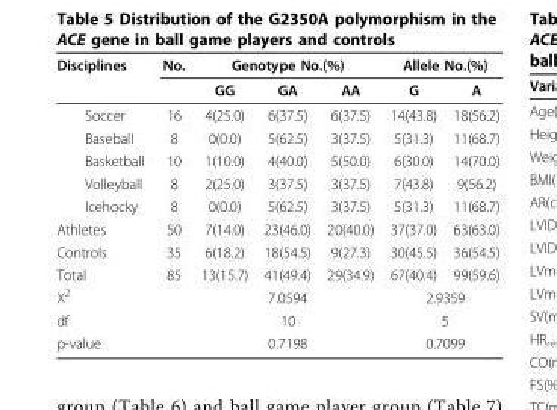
<table><thead><tr><td rowspan="2">Disciplines</td><td rowspan="2">No.</td><td colspan="3">Genotype No.(%)</td><td colspan="2">Allele No.(%)</td></tr><tr><td>GG</td><td>GA</td><td>AA</td><td>G</td><td>A</td></tr></thead><tbody><tr><td>Soccer</td><td>16</td><td>4(25.0)</td><td>6(37.5)</td><td>6(37.5)</td><td>14(43.8)</td><td>18(56.2)</td></tr><tr><td>Baseball</td><td>8</td><td>0(0.0)</td><td>5(62.5)</td><td>3(37.5)</td><td>5(31.3)</td><td>11(68.7)</td></tr><tr><td>Basketball</td><td>10</td><td>1(10.0)</td><td>4(40.0)</td><td>5(50.0)</td><td>6(30.0)</td><td>14(70.0)</td></tr><tr><td>Volleyball</td><td>8</td><td>2(25.0)</td><td>3(37.5)</td><td>3(37.5)</td><td>7(43.8)</td><td>9(56.2)</td></tr><tr><td>Icehocky</td><td>8</td><td>0(0.0)</td><td>5(62.5)</td><td>3(37.5)</td><td>5(31.3)</td><td>11(68.7)</td></tr><tr><td>Athletes</td><td>50</td><td>7(14.0)</td><td>23(46.0)</td><td>20(40.0)</td><td>37(37.0)</td><td>63(63.0)</td></tr><tr><td>Controls</td><td>35</td><td>6(18.2)</td><td>18(54.5)</td><td>9(27.3)</td><td>30(45.5)</td><td>36(54.5)</td></tr><tr><td>Total</td><td>85</td><td>13(15.7)</td><td>41(49.4)</td><td>29(34.9)</td><td>67(40.4)</td><td>99(59.6)</td></tr><tr><td>Χ<sup>2</sup></td><td></td><td colspan="3">7.0594</td><td colspan="2">2.9359</td></tr><tr><td>df</td><td></td><td colspan="3">10</td><td colspan="2">5</td></tr><tr><td>p-value</td><td></td><td colspan="3">0.7198</td><td colspan="2">0.7099</td></tr></tbody></table>